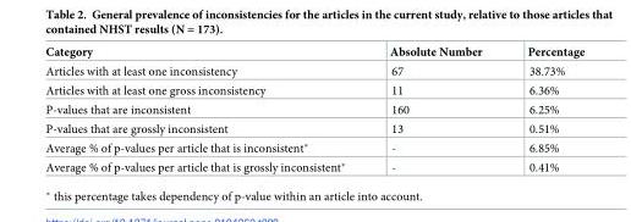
<table><thead><tr><td>Category</td><td>Absolute Number</td><td>Percentage</td></tr></thead><tbody><tr><td>Articles with at least one inconsistency</td><td>67</td><td>38.73%</td></tr><tr><td>Articles with at least one gross inconsistency</td><td>11</td><td>6.36%</td></tr><tr><td>P-values that are inconsistent</td><td>160</td><td>6.25%</td></tr><tr><td>P-values that are grossly inconsistent</td><td>13</td><td>0.51%</td></tr><tr><td>Average % of p-values per article that is inconsistent*</td><td>-</td><td>6.85%</td></tr><tr><td>Average % of p-values per article that is grossly inconsistent*</td><td>-</td><td>0.41%</td></tr></tbody></table>